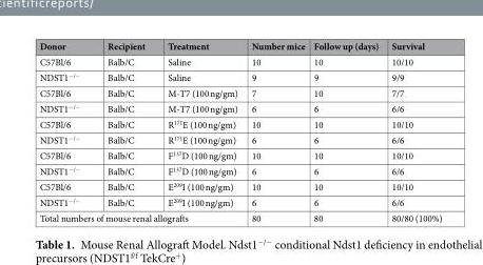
<table><thead><tr><td>Donor</td><td>Recipient</td><td>Treatment</td><td>Number mice</td><td>Follow up (days)</td><td>Survival</td></tr></thead><tbody><tr><td>C57Bl/6</td><td>Balb/C</td><td>Saline</td><td>10</td><td>10</td><td>10/10</td></tr><tr><td>NDST1<sup>−/−</sup></td><td>Balb/C</td><td>Saline</td><td>9</td><td>9</td><td>9/9</td></tr><tr><td>C57Bl/6</td><td>Balb/C</td><td>M-T7 (100 ng/gm)</td><td>7</td><td>10</td><td>7/7</td></tr><tr><td>NDST1<sup>−/−</sup></td><td>Balb/C</td><td>M-T7 (100 ng/gm)</td><td>6</td><td>6</td><td>6/6</td></tr><tr><td>C57Bl/6</td><td>Balb/C</td><td>R<sup>171</sup>E (100 ng/gm)</td><td>10</td><td>10</td><td>10/10</td></tr><tr><td>NDST1<sup>−/−</sup></td><td>Balb/C</td><td>R<sup>171</sup>E (100 ng/gm)</td><td>6</td><td>6</td><td>6/6</td></tr><tr><td>C57Bl/6</td><td>Balb/C</td><td>F<sup>137</sup>D (100 ng/gm)</td><td>10</td><td>10</td><td>10/10</td></tr><tr><td>NDST1<sup>−/−</sup></td><td>Balb/C</td><td>F<sup>137</sup>D (100 ng/gm)</td><td>6</td><td>6</td><td>6/6</td></tr><tr><td>C57Bl/6</td><td>Balb/C</td><td>E<sup>209</sup>I (100 ng/gm)</td><td>10</td><td>10</td><td>10/10</td></tr><tr><td>NDST1<sup>−/−</sup></td><td>Balb/C</td><td>E<sup>209</sup>I (100 ng/gm)</td><td>6</td><td>6</td><td>6/6</td></tr><tr><td colspan="3">Total numbers of mouse renal allografts</td><td>80</td><td>80</td><td>80/80 (100%)</td></tr></tbody></table>